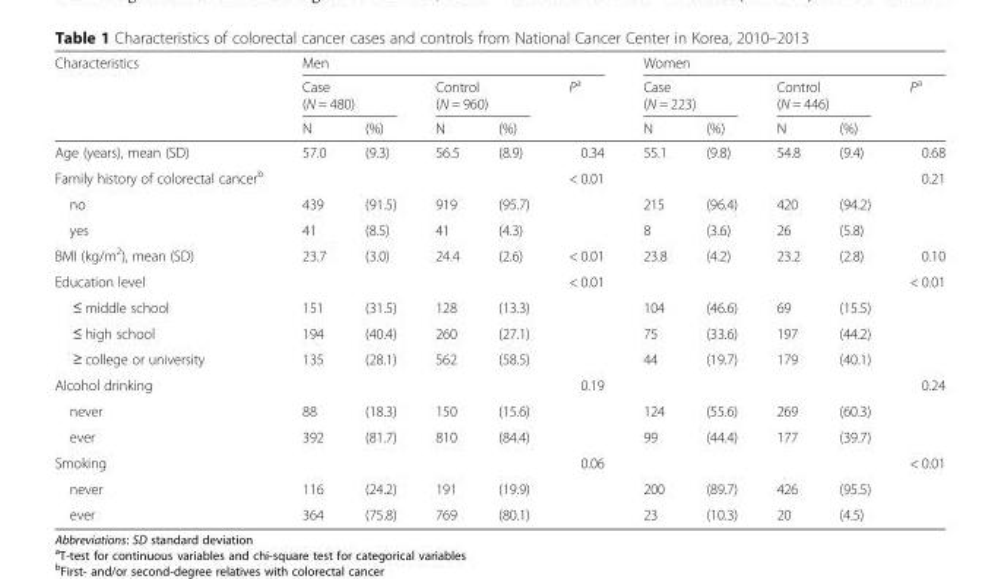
<table><thead><tr><td rowspan="4">Characteristics</td><td colspan="5">Men</td><td colspan="5">Women</td></tr><tr><td rowspan="2" colspan="2">Case (N = 480)</td><td rowspan="2" colspan="2">Control (N = 960)</td><td rowspan="3">P<sup>a</sup></td><td rowspan="2" colspan="2">Case (N = 223)</td><td rowspan="2" colspan="2">Control (N = 446)</td><td rowspan="3">P<sup>a</sup></td></tr><tr></tr><tr><td>N</td><td>(%)</td><td>N</td><td>(%)</td><td>N</td><td>(%)</td><td>N</td><td>(%)</td></tr></thead><tbody><tr><td>Age (years), mean (SD)</td><td>57.0</td><td>(9.3)</td><td>56.5</td><td>(8.9)</td><td>0.34</td><td>55.1</td><td>(9.8)</td><td>54.8</td><td>(9.4)</td><td>0.68</td></tr><tr><td>Family history of colorectal cancer<sup>b</sup></td><td></td><td></td><td></td><td></td><td>&lt; 0.01</td><td></td><td></td><td></td><td></td><td>0.21</td></tr><tr><td>no</td><td>439</td><td>(91.5)</td><td>919</td><td>(95.7)</td><td></td><td>215</td><td>(96.4)</td><td>420</td><td>(94.2)</td><td></td></tr><tr><td>yes</td><td>41</td><td>(8.5)</td><td>41</td><td>(4.3)</td><td></td><td>8</td><td>(3.6)</td><td>26</td><td>(5.8)</td><td></td></tr><tr><td>BMI (kg/m<sup>2</sup>), mean (SD)</td><td>23.7</td><td>(3.0)</td><td>24.4</td><td>(2.6)</td><td>&lt; 0.01</td><td>23.8</td><td>(4.2)</td><td>23.2</td><td>(2.8)</td><td>0.10</td></tr><tr><td>Education level</td><td></td><td></td><td></td><td></td><td>&lt; 0.01</td><td></td><td></td><td></td><td></td><td>&lt; 0.01</td></tr><tr><td>≤ middle school</td><td>151</td><td>(31.5)</td><td>128</td><td>(13.3)</td><td></td><td>104</td><td>(46.6)</td><td>69</td><td>(15.5)</td><td></td></tr><tr><td>≤ high school</td><td>194</td><td>(40.4)</td><td>260</td><td>(27.1)</td><td></td><td>75</td><td>(33.6)</td><td>197</td><td>(44.2)</td><td></td></tr><tr><td>≥ college or university</td><td>135</td><td>(28.1)</td><td>562</td><td>(58.5)</td><td></td><td>44</td><td>(19.7)</td><td>179</td><td>(40.1)</td><td></td></tr><tr><td>Alcohol drinking</td><td></td><td></td><td></td><td></td><td>0.19</td><td></td><td></td><td></td><td></td><td>0.24</td></tr><tr><td>never</td><td>88</td><td>(18.3)</td><td>150</td><td>(15.6)</td><td></td><td>124</td><td>(55.6)</td><td>269</td><td>(60.3)</td><td></td></tr><tr><td>ever</td><td>392</td><td>(81.7)</td><td>810</td><td>(84.4)</td><td></td><td>99</td><td>(44.4)</td><td>177</td><td>(39.7)</td><td></td></tr><tr><td>Smoking</td><td></td><td></td><td></td><td></td><td>0.06</td><td></td><td></td><td></td><td></td><td>&lt; 0.01</td></tr><tr><td>never</td><td>116</td><td>(24.2)</td><td>191</td><td>(19.9)</td><td></td><td>200</td><td>(89.7)</td><td>426</td><td>(95.5)</td><td></td></tr><tr><td>ever</td><td>364</td><td>(75.8)</td><td>769</td><td>(80.1)</td><td></td><td>23</td><td>(10.3)</td><td>20</td><td>(4.5)</td><td></td></tr></tbody></table>